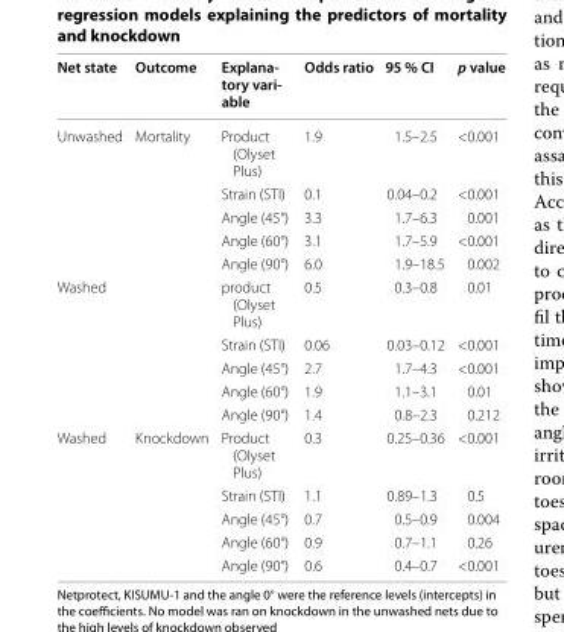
<table><thead><tr><td>Net state</td><td>Outcome</td><td>Explana‑ tory vari‑ able</td><td>Odds ratio</td><td>95 % CI</td><td>p value</td></tr></thead><tbody><tr><td rowspan="5">Unwashed</td><td>Mortality</td><td>Product (Olyset Plus)</td><td>1.9</td><td>1.5–2.5</td><td>&lt;0.001</td></tr><tr><td></td><td>Strain (STI)</td><td>0.1</td><td>0.04–0.2</td><td>&lt;0.001</td></tr><tr><td></td><td>Angle (45°)</td><td>3.3</td><td>1.7–6.3</td><td>0.001</td></tr><tr><td></td><td>Angle (60°)</td><td>3.1</td><td>1.7–5.9</td><td>&lt;0.001</td></tr><tr><td></td><td>Angle (90°)</td><td>6.0</td><td>1.9–18.5</td><td>0.002</td></tr><tr><td rowspan="5">Washed</td><td></td><td>product (Olyset Plus)</td><td>0.5</td><td>0.3–0.8</td><td>0.01</td></tr><tr><td></td><td>Strain (STI)</td><td>0.06</td><td>0.03–0.12</td><td>&lt;0.001</td></tr><tr><td></td><td>Angle (45°)</td><td>2.7</td><td>1.7–4.3</td><td>&lt;0.001</td></tr><tr><td></td><td>Angle (60°)</td><td>1.9</td><td>1.1–3.1</td><td>0.01</td></tr><tr><td></td><td>Angle (90°)</td><td>1.4</td><td>0.8–2.3</td><td>0.212</td></tr><tr><td rowspan="5">Washed</td><td>Knockdown</td><td>Product (Olyset Plus)</td><td>0.3</td><td>0.25–0.36</td><td>&lt;0.001</td></tr><tr><td></td><td>Strain (STI)</td><td>1.1</td><td>0.89–1.3</td><td>0.5</td></tr><tr><td></td><td>Angle (45°)</td><td>0.7</td><td>0.5–0.9</td><td>0.004</td></tr><tr><td></td><td>Angle (60°)</td><td>0.9</td><td>0.7–1.1</td><td>0.26</td></tr><tr><td></td><td>Angle (90°)</td><td>0.6</td><td>0.4–0.7</td><td>&lt;0.001</td></tr></tbody></table>